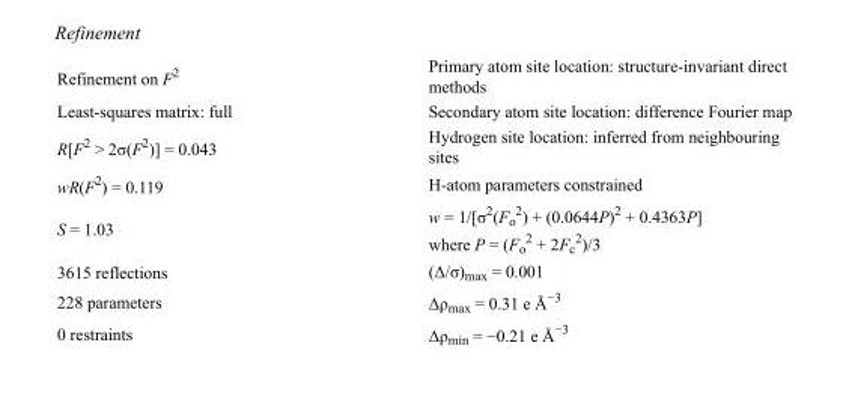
<table><tbody><tr><td>Refinement on F<sup>2</sup></td><td>Primary atom site location: structure-invariant direct methods</td></tr><tr><td>Least-squares matrix: full</td><td>Secondary atom site location: difference Fourier map</td></tr><tr><td>R[F<sup>2</sup> &gt; 2σ(F<sup>2</sup>)] = 0.043</td><td>Hydrogen site location: inferred from neighbouring sites</td></tr><tr><td>wR(F<sup>2</sup>) = 0.119</td><td>H-atom parameters constrained</td></tr><tr><td>S = 1.03</td><td>w = 1/[σ<sup>2</sup>(F<sub>o</sub> <sup>2</sup>) + (0.0644P)<sup>2</sup> + 0.4363P] where P = (F<sub>o</sub> <sup>2</sup> + 2F<sub>c</sub> <sup>2</sup>)/3</td></tr><tr><td>3615 reflections</td><td>(Δ/σ)<sub>max</sub> = 0.001</td></tr><tr><td>228 parameters</td><td>Δρ<sub>max</sub> = 0.31 e Å<sup>−3</sup></td></tr><tr><td>0 restraints</td><td>Δρ<sub>min</sub> = −0.21 e Å<sup>−3</sup></td></tr></tbody></table>